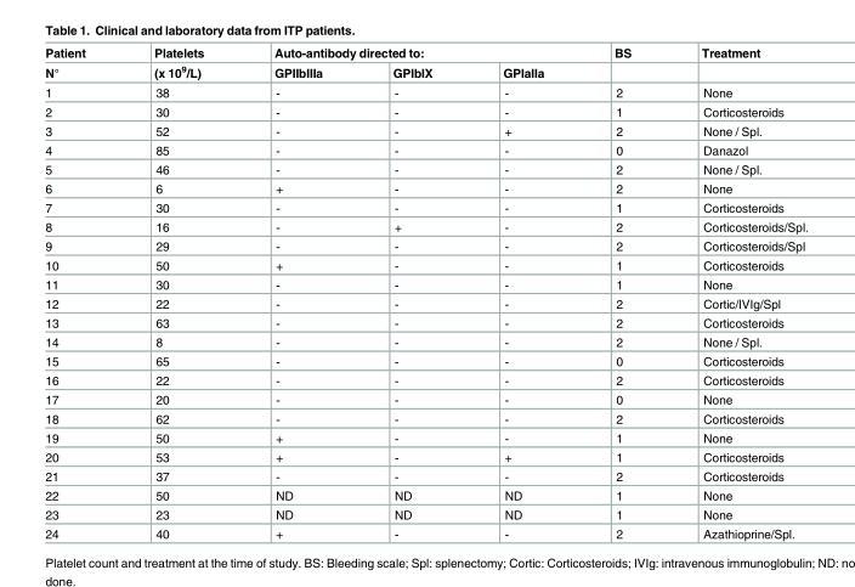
<table><thead><tr><td rowspan="2">Patient N°</td><td rowspan="2">Platelets (x 10<sup>9</sup>/L)</td><td colspan="3">Auto-antibody directed to:</td><td rowspan="2">BS</td><td rowspan="2">Treatment</td></tr><tr><td>GPIIbIIIa</td><td>GPIbIX</td><td>GPIaIIa</td></tr></thead><tbody><tr><td>1</td><td>38</td><td>-</td><td>-</td><td>-</td><td>2</td><td>None</td></tr><tr><td>2</td><td>30</td><td>-</td><td>-</td><td>-</td><td>1</td><td>Corticosteroids</td></tr><tr><td>3</td><td>52</td><td>-</td><td>-</td><td>+</td><td>2</td><td>None / Spl.</td></tr><tr><td>4</td><td>85</td><td>-</td><td>-</td><td>-</td><td>0</td><td>Danazol</td></tr><tr><td>5</td><td>46</td><td>-</td><td>-</td><td>-</td><td>2</td><td>None / Spl.</td></tr><tr><td>6</td><td>6</td><td>+</td><td>-</td><td>-</td><td>2</td><td>None</td></tr><tr><td>7</td><td>30</td><td>-</td><td>-</td><td>-</td><td>1</td><td>Corticosteroids</td></tr><tr><td>8</td><td>16</td><td>-</td><td>+</td><td>-</td><td>2</td><td>Corticosteroids/Spl.</td></tr><tr><td>9</td><td>29</td><td>-</td><td>-</td><td>-</td><td>2</td><td>Corticosteroids/Spl</td></tr><tr><td>10</td><td>50</td><td>+</td><td>-</td><td>-</td><td>1</td><td>Corticosteroids</td></tr><tr><td>11</td><td>30</td><td>-</td><td>-</td><td>-</td><td>1</td><td>None</td></tr><tr><td>12</td><td>22</td><td>-</td><td>-</td><td>-</td><td>2</td><td>Cortic/IVIg/Spl</td></tr><tr><td>13</td><td>63</td><td>-</td><td>-</td><td>-</td><td>2</td><td>Corticosteroids</td></tr><tr><td>14</td><td>8</td><td>-</td><td>-</td><td>-</td><td>2</td><td>None / Spl.</td></tr><tr><td>15</td><td>65</td><td>-</td><td>-</td><td>-</td><td>0</td><td>Corticosteroids</td></tr><tr><td>16</td><td>22</td><td>-</td><td>-</td><td>-</td><td>2</td><td>Corticosteroids</td></tr><tr><td>17</td><td>20</td><td>-</td><td>-</td><td>-</td><td>0</td><td>None</td></tr><tr><td>18</td><td>62</td><td>-</td><td>-</td><td>-</td><td>2</td><td>Corticosteroids</td></tr><tr><td>19</td><td>50</td><td>+</td><td>-</td><td>-</td><td>1</td><td>None</td></tr><tr><td>20</td><td>53</td><td>+</td><td>-</td><td>+</td><td>1</td><td>Corticosteroids</td></tr><tr><td>21</td><td>37</td><td>-</td><td>-</td><td>-</td><td>2</td><td>Corticosteroids</td></tr><tr><td>22</td><td>50</td><td>ND</td><td>ND</td><td>ND</td><td>1</td><td>None</td></tr><tr><td>23</td><td>23</td><td>ND</td><td>ND</td><td>ND</td><td>1</td><td>None</td></tr><tr><td>24</td><td>40</td><td>+</td><td>-</td><td>-</td><td>2</td><td>Azathioprine/Spl.</td></tr></tbody></table>